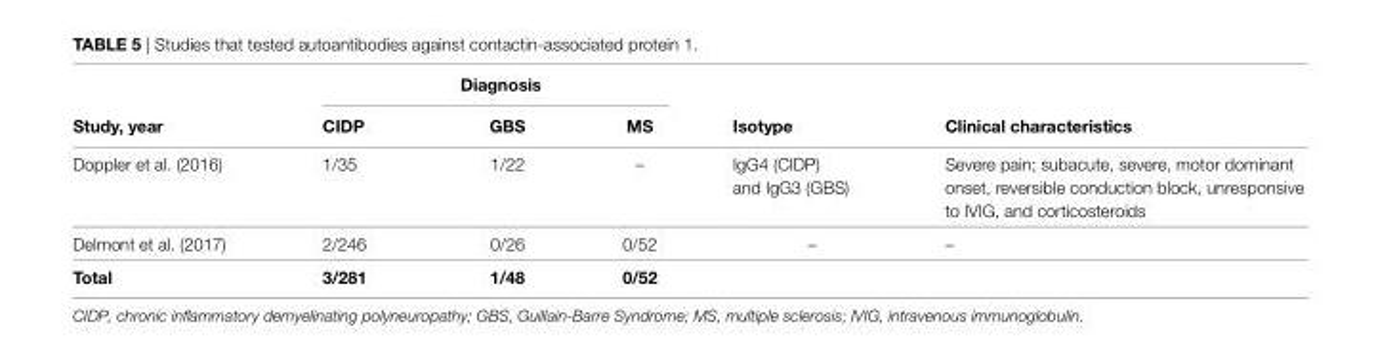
<table><thead><tr><td rowspan="2">Study, year</td><td colspan="3">Diagnosis</td><td rowspan="2">isotype</td><td rowspan="2">Clinical characteristics</td></tr><tr><td>CiDP</td><td>GBS</td><td>MS</td></tr></thead><tbody><tr><td>Doppler et al. (2016)</td><td>1/35</td><td>1/22</td><td>–</td><td>IgG4 (CIDP) and IgG3 (GBS)</td><td>Severe pain; subacute, severe, motor dominant onset, reversible conduction block, unresponsive to IVIG, and corticosteroids</td></tr><tr><td>Delmont et al. (2017)</td><td>2/246</td><td>0/26</td><td>0/52</td><td>–</td><td>–</td></tr><tr><td>Total</td><td>3/281</td><td>1/48</td><td>0/52</td><td></td><td></td></tr></tbody></table>